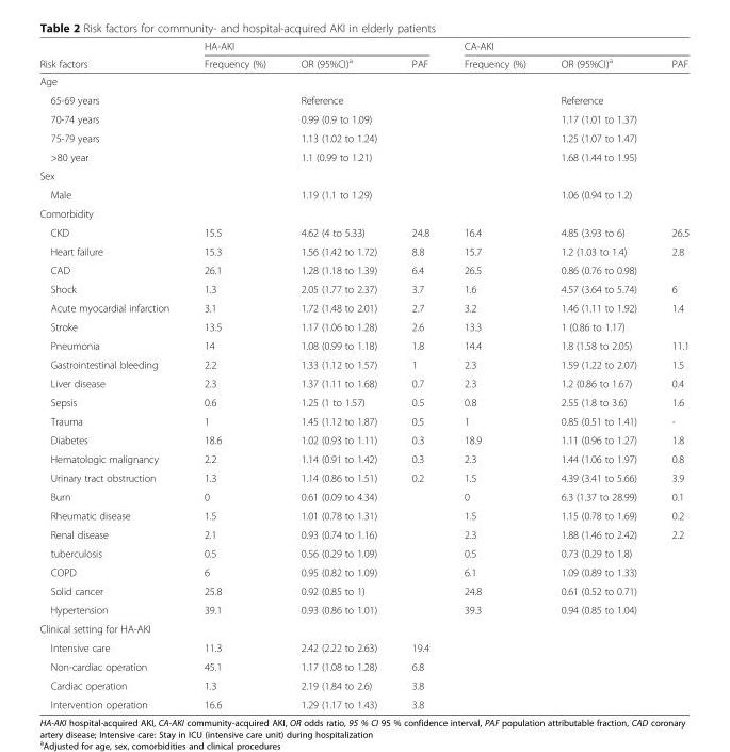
<table><thead><tr><td rowspan="2">Risk factors</td><td colspan="3">HA-AKI</td><td colspan="3">CA-AKI</td></tr><tr><td>Frequency (%)</td><td>OR (95%CI)<sup>a</sup></td><td>PAF</td><td>Frequency (%)</td><td>OR (95%CI)<sup>a</sup></td><td>PAF</td></tr></thead><tbody><tr><td colspan="7">Age</td></tr><tr><td>65-69 years</td><td></td><td>Reference</td><td></td><td></td><td>Reference</td><td></td></tr><tr><td>70-74 years</td><td></td><td>0.99 (0.9 to 1.09)</td><td></td><td></td><td>1.17 (1.01 to 1.37)</td><td></td></tr><tr><td>75-79 years</td><td></td><td>1.13 (1.02 to 1.24)</td><td></td><td></td><td>1.25 (1.07 to 1.47)</td><td></td></tr><tr><td>&gt;80 year</td><td></td><td>1.1 (0.99 to 1.21)</td><td></td><td></td><td>1.68 (1.44 to 1.95)</td><td></td></tr><tr><td colspan="7">Sex</td></tr><tr><td>Male</td><td></td><td>1.19 (1.1 to 1.29)</td><td></td><td></td><td>1.06 (0.94 to 1.2)</td><td></td></tr><tr><td colspan="7">Comorbidity</td></tr><tr><td>CKD</td><td>15.5</td><td>4.62 (4 to 5.33)</td><td>24.8</td><td>16.4</td><td>4.85 (3.93 to 6)</td><td>26.5</td></tr><tr><td>Heart failure</td><td>15.3</td><td>1.56 (1.42 to 1.72)</td><td>8.8</td><td>15.7</td><td>1.2 (1.03 to 1.4)</td><td>2.8</td></tr><tr><td>CAD</td><td>26.1</td><td>1.28 (1.18 to 1.39)</td><td>6.4</td><td>26.5</td><td>0.86 (0.76 to 0.98)</td><td></td></tr><tr><td>Shock</td><td>1.3</td><td>2.05 (1.77 to 2.37)</td><td>3.7</td><td>1.6</td><td>4.57 (3.64 to 5.74)</td><td>6</td></tr><tr><td>Acute myocardial infarction</td><td>3.1</td><td>1.72 (1.48 to 2.01)</td><td>2.7</td><td>3.2</td><td>1.46 (1.11 to 1.92)</td><td>1.4</td></tr><tr><td>Stroke</td><td>13.5</td><td>1.17 (1.06 to 1.28)</td><td>2.6</td><td>13.3</td><td>1 (0.86 to 1.17)</td><td></td></tr><tr><td>Pneumonia</td><td>14</td><td>1.08 (0.99 to 1.18)</td><td>1.8</td><td>14.4</td><td>1.8 (1.58 to 2.05)</td><td>11.1</td></tr><tr><td>Gastrointestinal bleeding</td><td>2.2</td><td>1.33 (1.12 to 1.57)</td><td>1</td><td>2.3</td><td>1.59 (1.22 to 2.07)</td><td>1.5</td></tr><tr><td>Liver disease</td><td>2.3</td><td>1.37 (1.11 to 1.68)</td><td>0.7</td><td>2.3</td><td>1.2 (0.86 to 1.67)</td><td>0.4</td></tr><tr><td>Sepsis</td><td>0.6</td><td>1.25 (1 to 1.57)</td><td>0.5</td><td>0.8</td><td>2.55 (1.8 to 3.6)</td><td>1.6</td></tr><tr><td>Trauma</td><td>1</td><td>1.45 (1.12 to 1.87)</td><td>0.5</td><td>1</td><td>0.85 (0.51 to 1.41)</td><td>-</td></tr><tr><td>Diabetes</td><td>18.6</td><td>1.02 (0.93 to 1.11)</td><td>0.3</td><td>18.9</td><td>1.11 (0.96 to 1.27)</td><td>1.8</td></tr><tr><td>Hematologic malignancy</td><td>2.2</td><td>1.14 (0.91 to 1.42)</td><td>0.3</td><td>2.3</td><td>1.44 (1.06 to 1.97)</td><td>0.8</td></tr><tr><td>Urinary tract obstruction</td><td>1.3</td><td>1.14 (0.86 to 1.51)</td><td>0.2</td><td>1.5</td><td>4.39 (3.41 to 5.66)</td><td>3.9</td></tr><tr><td>Burn</td><td>0</td><td>0.61 (0.09 to 4.34)</td><td></td><td>0</td><td>6.3 (1.37 to 28.99)</td><td>0.1</td></tr><tr><td>Rheumatic disease</td><td>1.5</td><td>1.01 (0.78 to 1.31)</td><td></td><td>1.5</td><td>1.15 (0.78 to 1.69)</td><td>0.2</td></tr><tr><td>Renal disease</td><td>2.1</td><td>0.93 (0.74 to 1.16)</td><td></td><td>2.3</td><td>1.88 (1.46 to 2.42)</td><td>2.2</td></tr><tr><td>tuberculosis</td><td>0.5</td><td>0.56 (0.29 to 1.09)</td><td></td><td>0.5</td><td>0.73 (0.29 to 1.8)</td><td></td></tr><tr><td>COPD</td><td>6</td><td>0.95 (0.82 to 1.09)</td><td></td><td>6.1</td><td>1.09 (0.89 to 1.33)</td><td></td></tr><tr><td>Solid cancer</td><td>25.8</td><td>0.92 (0.85 to 1)</td><td></td><td>24.8</td><td>0.61 (0.52 to 0.71)</td><td></td></tr><tr><td>Hypertension</td><td>39.1</td><td>0.93 (0.86 to 1.01)</td><td></td><td>39.3</td><td>0.94 (0.85 to 1.04)</td><td></td></tr><tr><td colspan="7">Clinical setting for HA-AKI</td></tr><tr><td>Intensive care</td><td>11.3</td><td>2.42 (2.22 to 2.63)</td><td>19.4</td><td></td><td></td><td></td></tr><tr><td>Non-cardiac operation</td><td>45.1</td><td>1.17 (1.08 to 1.28)</td><td>6.8</td><td></td><td></td><td></td></tr><tr><td>Cardiac operation</td><td>1.3</td><td>2.19 (1.84 to 2.6)</td><td>3.8</td><td></td><td></td><td></td></tr><tr><td>Intervention operation</td><td>16.6</td><td>1.29 (1.17 to 1.43)</td><td>3.8</td><td></td><td></td><td></td></tr></tbody></table>